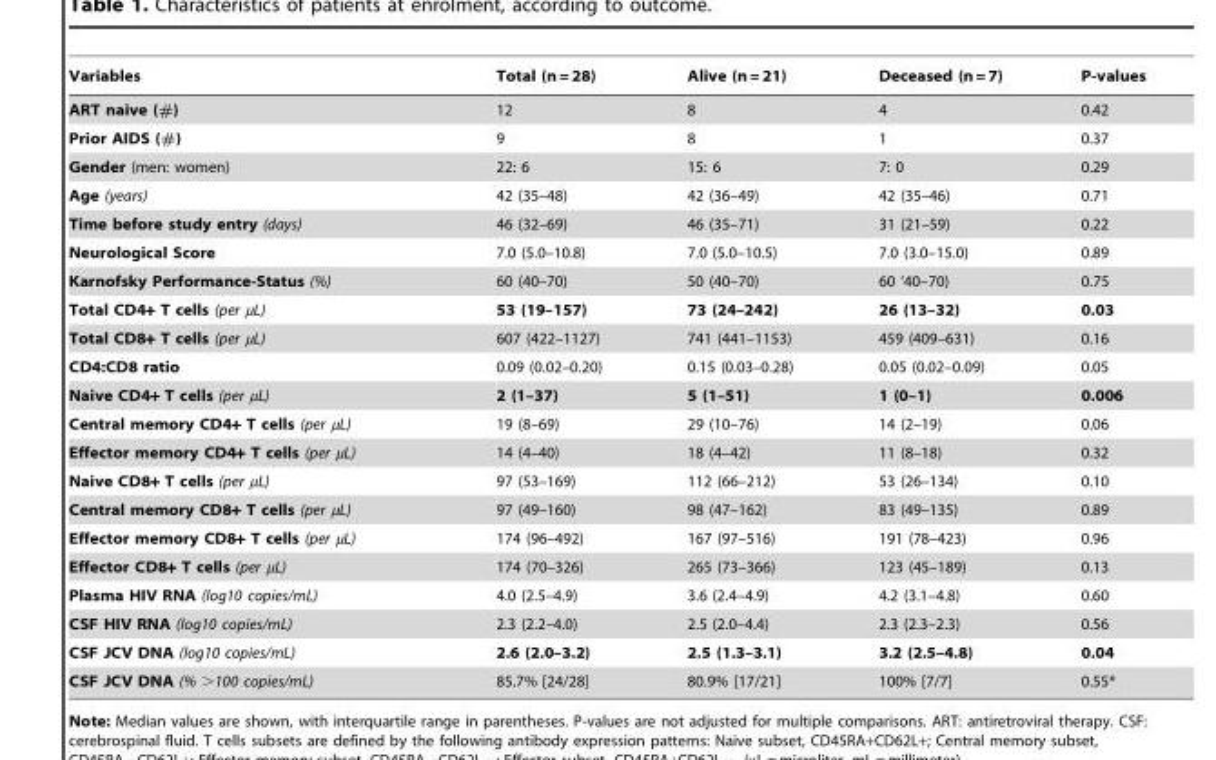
<table><thead><tr><td>Variables</td><td>Total (n = 28)</td><td>Alive (n = 21)</td><td>Deceased (n = 7)</td><td>P-values</td></tr></thead><tbody><tr><td>ART naive (#)</td><td>12</td><td>8</td><td>4</td><td>0.42</td></tr><tr><td>Prior AIDS (#)</td><td>9</td><td>8</td><td>1</td><td>0.37</td></tr><tr><td>Gender (men: women)</td><td>22: 6</td><td>15: 6</td><td>7: 0</td><td>0.29</td></tr><tr><td>Age (years)</td><td>42 (35–48)</td><td>42 (36–49)</td><td>42 (35–46)</td><td>0.71</td></tr><tr><td>Time before study entry (days)</td><td>46 (32–69)</td><td>46 (35–71)</td><td>31 (21–59)</td><td>0.22</td></tr><tr><td>Neurological Score</td><td>7.0 (5.0–10.8)</td><td>7.0 (5.0–10.5)</td><td>7.0 (3.0–15.0)</td><td>0.89</td></tr><tr><td>Karnofsky Performance-Status (%)</td><td>60 (40–70)</td><td>50 (40–70)</td><td>60 ‘40–70)</td><td>0.75</td></tr><tr><td>Total CD4+ T cells (per µL)</td><td>53 (19–157)</td><td>73 (24–242)</td><td>26 (13–32)</td><td>0.03</td></tr><tr><td>Total CD8+ T cells (per µL)</td><td>607 (422–1127)</td><td>741 (441–1153)</td><td>459 (409–631)</td><td>0.16</td></tr><tr><td>CD4:CD8 ratio</td><td>0.09 (0.02–0.20)</td><td>0.15 (0.03–0.28)</td><td>0.05 (0.02–0.09)</td><td>0.05</td></tr><tr><td>Naive CD4+ T cells (per µL)</td><td>2 (1–37)</td><td>5 (1–51)</td><td>1 (0–1)</td><td>0.006</td></tr><tr><td>Central memory CD4+ T cells (per µL)</td><td>19 (8–69)</td><td>29 (10–76)</td><td>14 (2–19)</td><td>0.06</td></tr><tr><td>Effector memory CD4+ T cells (per µL)</td><td>14 (4–40)</td><td>18 (4–42)</td><td>11 (8–18)</td><td>0.32</td></tr><tr><td>Naive CD8+ T cells (per µL)</td><td>97 (53–169)</td><td>112 (66–212)</td><td>53 (26–134)</td><td>0.10</td></tr><tr><td>Central memory CD8+ T cells (per µL)</td><td>97 (49–160)</td><td>98 (47–162)</td><td>83 (49–135)</td><td>0.89</td></tr><tr><td>Effector memory CD8+ T cells (per µL)</td><td>174 (96–492)</td><td>167 (97–516)</td><td>191 (78–423)</td><td>0.96</td></tr><tr><td>Effector CD8+ T cells (per µL)</td><td>174 (70–326)</td><td>265 (73–366)</td><td>123 (45–189)</td><td>0.13</td></tr><tr><td>Plasma HIV RNA (log10 copies/mL)</td><td>4.0 (2.5–4.9)</td><td>3.6 (2.4–4.9)</td><td>4.2 (3.1–4.8)</td><td>0.60</td></tr><tr><td>CSF HIV RNA (log10 copies/mL)</td><td>2.3 (2.2–4.0)</td><td>2.5 (2.0–4.4)</td><td>2.3 (2.3–2.3)</td><td>0.56</td></tr><tr><td>CSF JCV DNA (log10 copies/mL)</td><td>2.6 (2.0–3.2)</td><td>2.5 (1.3–3.1)</td><td>3.2 (2.5–4.8)</td><td>0.04</td></tr><tr><td>CSF JCV DNA (% &gt;100 copies/mL)</td><td>85.7% [24/28]</td><td>80.9% [17/21]</td><td>100% [7/7]</td><td>0.55*</td></tr></tbody></table>